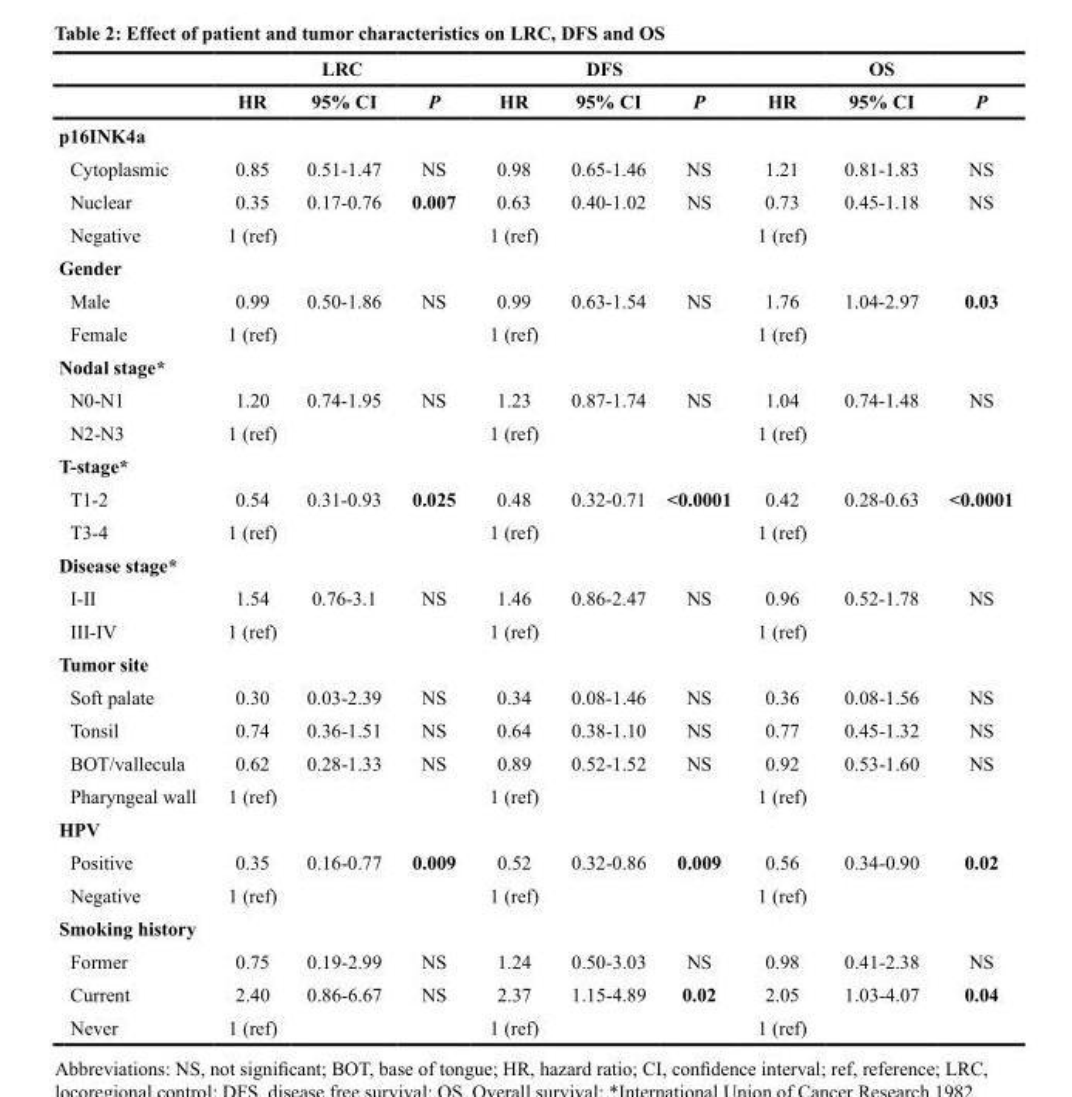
<table><thead><tr><td rowspan="2"></td><td colspan="3">LRC</td><td colspan="3">DFS</td><td colspan="3">OS</td></tr><tr><td>HR</td><td>95% CI</td><td>P</td><td>HR</td><td>95% CI</td><td>P</td><td>HR</td><td>95% CI</td><td>P</td></tr></thead><tbody><tr><td colspan="10">p16INK4a</td></tr><tr><td>Cytoplasmic</td><td>0.85</td><td>0.51-1.47</td><td>NS</td><td>0.98</td><td>0.65-1.46</td><td>NS</td><td>1.21</td><td>0.81-1.83</td><td>NS</td></tr><tr><td>Nuclear</td><td>0.35</td><td>0.17-0.76</td><td>0.007</td><td>0.63</td><td>0.40-1.02</td><td>NS</td><td>0.73</td><td>0.45-1.18</td><td>NS</td></tr><tr><td>Negative</td><td>1 (ref)</td><td></td><td></td><td>1 (ref)</td><td></td><td></td><td>1 (ref)</td><td></td><td></td></tr><tr><td colspan="10">Gender</td></tr><tr><td>Male</td><td>0.99</td><td>0.50-1.86</td><td>NS</td><td>0.99</td><td>0.63-1.54</td><td>NS</td><td>1.76</td><td>1.04-2.97</td><td>0.03</td></tr><tr><td>Female</td><td>1 (ref)</td><td></td><td></td><td>1 (ref)</td><td></td><td></td><td>1 (ref)</td><td></td><td></td></tr><tr><td colspan="10">Nodal stage*</td></tr><tr><td>N0-N1</td><td>1.20</td><td>0.74-1.95</td><td>NS</td><td>1.23</td><td>0.87-1.74</td><td>NS</td><td>1.04</td><td>0.74-1.48</td><td>NS</td></tr><tr><td>N2-N3</td><td>1 (ref)</td><td></td><td></td><td>1 (ref)</td><td></td><td></td><td>1 (ref)</td><td></td><td></td></tr><tr><td colspan="10">T-stage*</td></tr><tr><td>T1-2</td><td>0.54</td><td>0.31-0.93</td><td>0.025</td><td>0.48</td><td>0.32-0.71</td><td>&lt;0.0001</td><td>0.42</td><td>0.28-0.63</td><td>&lt;0.0001</td></tr><tr><td>T3-4</td><td>1 (ref)</td><td></td><td></td><td>1 (ref)</td><td></td><td></td><td>1 (ref)</td><td></td><td></td></tr><tr><td colspan="10">Disease stage*</td></tr><tr><td>I-II</td><td>1.54</td><td>0.76-3.1</td><td>NS</td><td>1.46</td><td>0.86-2.47</td><td>NS</td><td>0.96</td><td>0.52-1.78</td><td>NS</td></tr><tr><td>III-IV</td><td>1 (ref)</td><td></td><td></td><td>1 (ref)</td><td></td><td></td><td>1 (ref)</td><td></td><td></td></tr><tr><td colspan="10">Tumor site</td></tr><tr><td>Soft palate</td><td>0.30</td><td>0.03-2.39</td><td>NS</td><td>0.34</td><td>0.08-1.46</td><td>NS</td><td>0.36</td><td>0.08-1.56</td><td>NS</td></tr><tr><td>Tonsil</td><td>0.74</td><td>0.36-1.51</td><td>NS</td><td>0.64</td><td>0.38-1.10</td><td>NS</td><td>0.77</td><td>0.45-1.32</td><td>NS</td></tr><tr><td>BOT/vallecula</td><td>0.62</td><td>0.28-1.33</td><td>NS</td><td>0.89</td><td>0.52-1.52</td><td>NS</td><td>0.92</td><td>0.53-1.60</td><td>NS</td></tr><tr><td>Pharyngeal wall</td><td>1 (ref)</td><td></td><td></td><td>1 (ref)</td><td></td><td></td><td>1 (ref)</td><td></td><td></td></tr><tr><td colspan="10">HPV</td></tr><tr><td>Positive</td><td>0.35</td><td>0.16-0.77</td><td>0.009</td><td>0.52</td><td>0.32-0.86</td><td>0.009</td><td>0.56</td><td>0.34-0.90</td><td>0.02</td></tr><tr><td>Negative</td><td>1 (ref)</td><td></td><td></td><td>1 (ref)</td><td></td><td></td><td>1 (ref)</td><td></td><td></td></tr><tr><td colspan="10">Smoking history</td></tr><tr><td>Former</td><td>0.75</td><td>0.19-2.99</td><td>NS</td><td>1.24</td><td>0.50-3.03</td><td>NS</td><td>0.98</td><td>0.41-2.38</td><td>NS</td></tr><tr><td>Current</td><td>2.40</td><td>0.86-6.67</td><td>NS</td><td>2.37</td><td>1.15-4.89</td><td>0.02</td><td>2.05</td><td>1.03-4.07</td><td>0.04</td></tr><tr><td>Never</td><td>1 (ref)</td><td></td><td></td><td>1 (ref)</td><td></td><td></td><td>1 (ref)</td><td></td><td></td></tr></tbody></table>